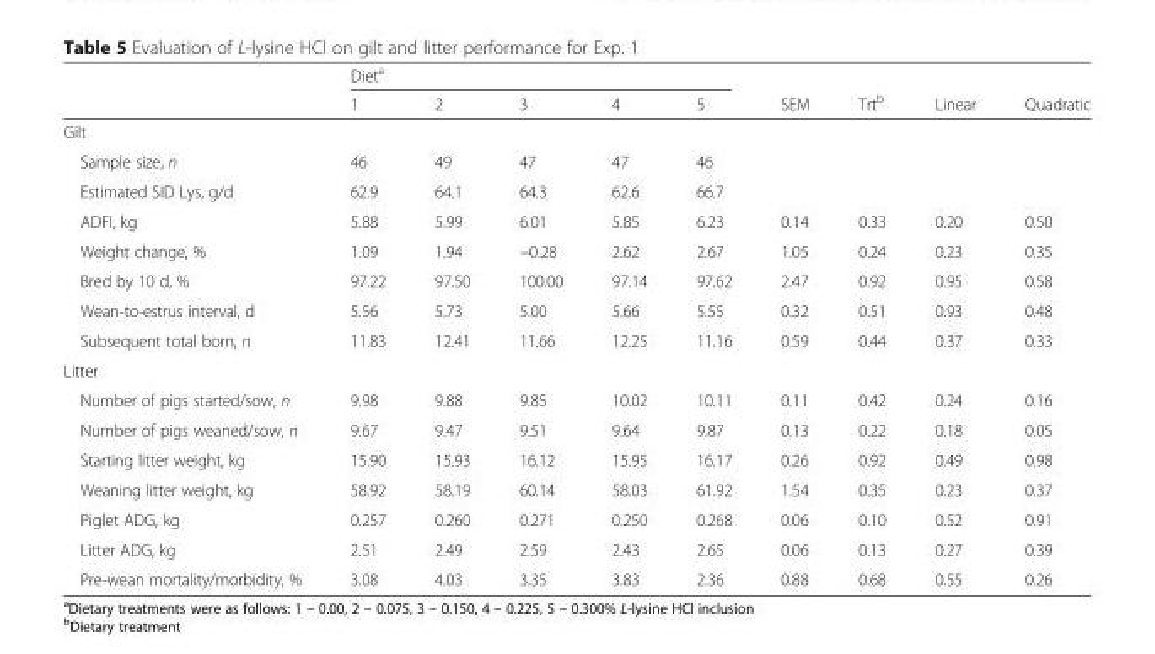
<table><thead><tr><td rowspan="2"></td><td colspan="5">Diet<sup>a</sup></td><td rowspan="2">SEM</td><td rowspan="2">Trt<sup>b</sup></td><td rowspan="2">Linear</td><td rowspan="2">Quadratic</td></tr><tr><td>1</td><td>2</td><td>3</td><td>4</td><td>5</td></tr></thead><tbody><tr><td colspan="10">Gilt</td></tr><tr><td>Sample size, n</td><td>46</td><td>49</td><td>47</td><td>47</td><td>46</td><td></td><td></td><td></td><td></td></tr><tr><td>Estimated SID Lys, g/d</td><td>62.9</td><td>64.1</td><td>64.3</td><td>62.6</td><td>66.7</td><td></td><td></td><td></td><td></td></tr><tr><td>ADFI, kg</td><td>5.88</td><td>5.99</td><td>6.01</td><td>5.85</td><td>6.23</td><td>0.14</td><td>0.33</td><td>0.20</td><td>0.50</td></tr><tr><td>Weight change, %</td><td>1.09</td><td>1.94</td><td>−0.28</td><td>2.62</td><td>2.67</td><td>1.05</td><td>0.24</td><td>0.23</td><td>0.35</td></tr><tr><td>Bred by 10 d, %</td><td>97.22</td><td>97.50</td><td>100.00</td><td>97.14</td><td>97.62</td><td>2.47</td><td>0.92</td><td>0.95</td><td>0.58</td></tr><tr><td>Wean-to-estrus interval, d</td><td>5.56</td><td>5.73</td><td>5.00</td><td>5.66</td><td>5.55</td><td>0.32</td><td>0.51</td><td>0.93</td><td>0.48</td></tr><tr><td>Subsequent total born, n</td><td>11.83</td><td>12.41</td><td>11.66</td><td>12.25</td><td>11.16</td><td>0.59</td><td>0.44</td><td>0.37</td><td>0.33</td></tr><tr><td colspan="10">Litter</td></tr><tr><td>Number of pigs started/sow, n</td><td>9.98</td><td>9.88</td><td>9.85</td><td>10.02</td><td>10.11</td><td>0.11</td><td>0.42</td><td>0.24</td><td>0.16</td></tr><tr><td>Number of pigs weaned/sow, n</td><td>9.67</td><td>9.47</td><td>9.51</td><td>9.64</td><td>9.87</td><td>0.13</td><td>0.22</td><td>0.18</td><td>0.05</td></tr><tr><td>Starting litter weight, kg</td><td>15.90</td><td>15.93</td><td>16.12</td><td>15.95</td><td>16.17</td><td>0.26</td><td>0.92</td><td>0.49</td><td>0.98</td></tr><tr><td>Weaning litter weight, kg</td><td>58.92</td><td>58.19</td><td>60.14</td><td>58.03</td><td>61.92</td><td>1.54</td><td>0.35</td><td>0.23</td><td>0.37</td></tr><tr><td>Piglet ADG, kg</td><td>0.257</td><td>0.260</td><td>0.271</td><td>0.250</td><td>0.268</td><td>0.06</td><td>0.10</td><td>0.52</td><td>0.91</td></tr><tr><td>Litter ADG, kg</td><td>2.51</td><td>2.49</td><td>2.59</td><td>2.43</td><td>2.65</td><td>0.06</td><td>0.13</td><td>0.27</td><td>0.39</td></tr><tr><td>Pre-wean mortality/morbidity, %</td><td>3.08</td><td>4.03</td><td>3.35</td><td>3.83</td><td>2.36</td><td>0.88</td><td>0.68</td><td>0.55</td><td>0.26</td></tr></tbody></table>